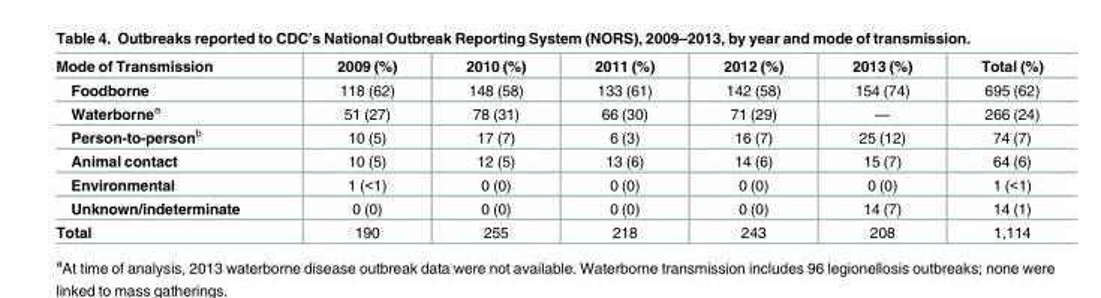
<table><thead><tr><td>Mode of Transmission</td><td>2009 (%)</td><td>2010 (%)</td><td>2011 (%)</td><td>2012 (%)</td><td>2013 (%)</td><td>Total (%)</td></tr></thead><tbody><tr><td>Foodborne</td><td>118 (62)</td><td>148 (58)</td><td>133 (61)</td><td>142 (58)</td><td>154 (74)</td><td>695 (62)</td></tr><tr><td>Waterborne<sup>a</sup></td><td>51 (27)</td><td>78 (31)</td><td>66 (30)</td><td>71 (29)</td><td>—</td><td>266 (24)</td></tr><tr><td>Person-to-person<sup>b</sup></td><td>10 (5)</td><td>17 (7)</td><td>6 (3)</td><td>16 (7)</td><td>25 (12)</td><td>74 (7)</td></tr><tr><td>Animal contact</td><td>10 (5)</td><td>12 (5)</td><td>13 (6)</td><td>14 (6)</td><td>15 (7)</td><td>64 (6)</td></tr><tr><td>Environmental</td><td>1 (&lt;1)</td><td>0 (0)</td><td>0 (0)</td><td>0 (0)</td><td>0 (0)</td><td>1 (&lt;1)</td></tr><tr><td>Unknown/indeterminate</td><td>0 (0)</td><td>0 (0)</td><td>0 (0)</td><td>0 (0)</td><td>14 (7)</td><td>14 (1)</td></tr><tr><td>Total</td><td>190</td><td>255</td><td>218</td><td>243</td><td>208</td><td>1,114</td></tr></tbody></table>